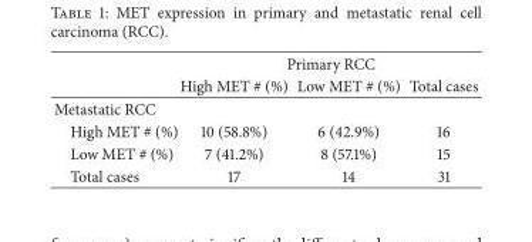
<table><thead><tr><td rowspan="2"></td><td colspan="3">Primary RCC</td></tr><tr><td>High MET # (%)</td><td>Low MET # (%)</td><td>Total cases</td></tr></thead><tbody><tr><td colspan="4">Metastatic RCC</td></tr><tr><td>High MET # (%)</td><td>10 (58.8%)</td><td>6 (42.9%)</td><td>16</td></tr><tr><td>Low MET # (%)</td><td>7 (41.2%)</td><td>8 (57.1%)</td><td>15</td></tr><tr><td>Total cases</td><td>17</td><td>14</td><td>31</td></tr></tbody></table>